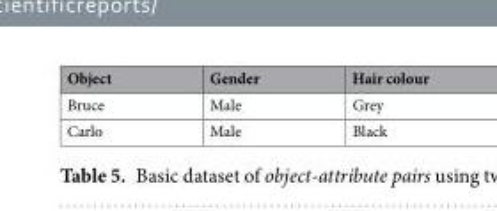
<table><thead><tr><td>Object</td><td>Gender</td><td>Hair colour</td></tr></thead><tbody><tr><td>Bruce</td><td>Male</td><td>Grey</td></tr><tr><td>Carlo</td><td>Male</td><td>Black</td></tr></tbody></table>